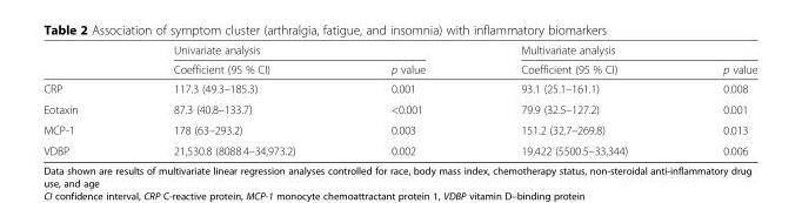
<table><thead><tr><td rowspan="2"></td><td colspan="2">Univariate analysis</td><td colspan="2">Multivariate analysis</td></tr><tr><td>Coefficient (95 % CI)</td><td>p value</td><td>Coefficient (95 % CI)</td><td>p value</td></tr></thead><tbody><tr><td>CRP</td><td>117.3 (49.3–185.3)</td><td>0.001</td><td>93.1 (25.1–161.1)</td><td>0.008</td></tr><tr><td>Eotaxin</td><td>87.3 (40.8–133.7)</td><td>&lt;0.001</td><td>79.9 (32.5–127.2)</td><td>0.001</td></tr><tr><td>MCP-1</td><td>178 (63–293.2)</td><td>0.003</td><td>151.2 (32.7–269.8)</td><td>0.013</td></tr><tr><td>VDBP</td><td>21,530.8 (8088.4–34,973.2)</td><td>0.002</td><td>19,422 (5500.5–33,344)</td><td>0.006</td></tr></tbody></table>